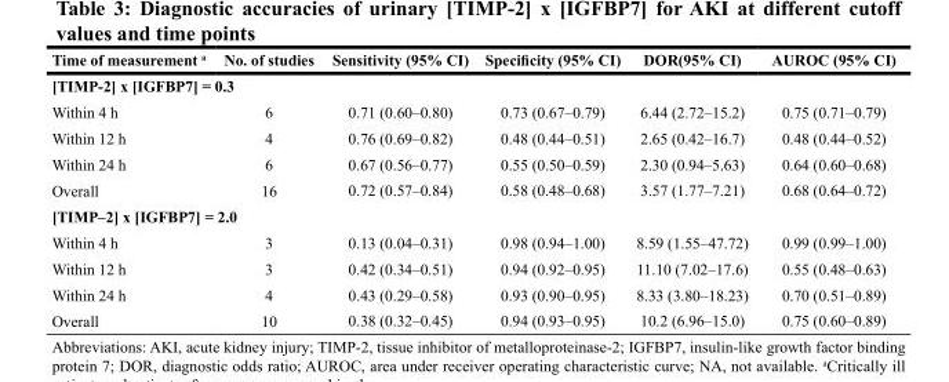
<table><thead><tr><td>Time of measurement <sup>a</sup></td><td>No. of studies</td><td>Sensitivity (95% CI)</td><td>Specificity (95% CI)</td><td>DOR(95% CI)</td><td>AUROC (95% CI)</td></tr></thead><tbody><tr><td colspan="6">[TIMP-2] x [IGFBP7] = 0.3</td></tr><tr><td>Within 4 h</td><td>6</td><td>0.71 (0.60–0.80)</td><td>0.73 (0.67–0.79)</td><td>6.44 (2.72–15.2)</td><td>0.75 (0.71–0.79)</td></tr><tr><td>Within 12 h</td><td>4</td><td>0.76 (0.69–0.82)</td><td>0.48 (0.44–0.51)</td><td>2.65 (0.42–16.7)</td><td>0.48 (0.44–0.52)</td></tr><tr><td>Within 24 h</td><td>6</td><td>0.67 (0.56–0.77)</td><td>0.55 (0.50–0.59)</td><td>2.30 (0.94–5.63)</td><td>0.64 (0.60–0.68)</td></tr><tr><td>Overall</td><td>16</td><td>0.72 (0.57–0.84)</td><td>0.58 (0.48–0.68)</td><td>3.57 (1.77–7.21)</td><td>0.68 (0.64–0.72)</td></tr><tr><td colspan="6">[TIMP–2] x [IGFBP7] = 2.0</td></tr><tr><td>Within 4 h</td><td>3</td><td>0.13 (0.04–0.31)</td><td>0.98 (0.94–1.00)</td><td>8.59 (1.55–47.72)</td><td>0.99 (0.99–1.00)</td></tr><tr><td>Within 12 h</td><td>3</td><td>0.42 (0.34–0.51)</td><td>0.94 (0.92–0.95)</td><td>11.10 (7.02–17.6)</td><td>0.55 (0.48–0.63)</td></tr><tr><td>Within 24 h</td><td>4</td><td>0.43 (0.29–0.58)</td><td>0.93 (0.90–0.95)</td><td>8.33 (3.80–18.23)</td><td>0.70 (0.51–0.89)</td></tr><tr><td>Overall</td><td>10</td><td>0.38 (0.32–0.45)</td><td>0.94 (0.93–0.95)</td><td>10.2 (6.96–15.0)</td><td>0.75 (0.60–0.89)</td></tr></tbody></table>